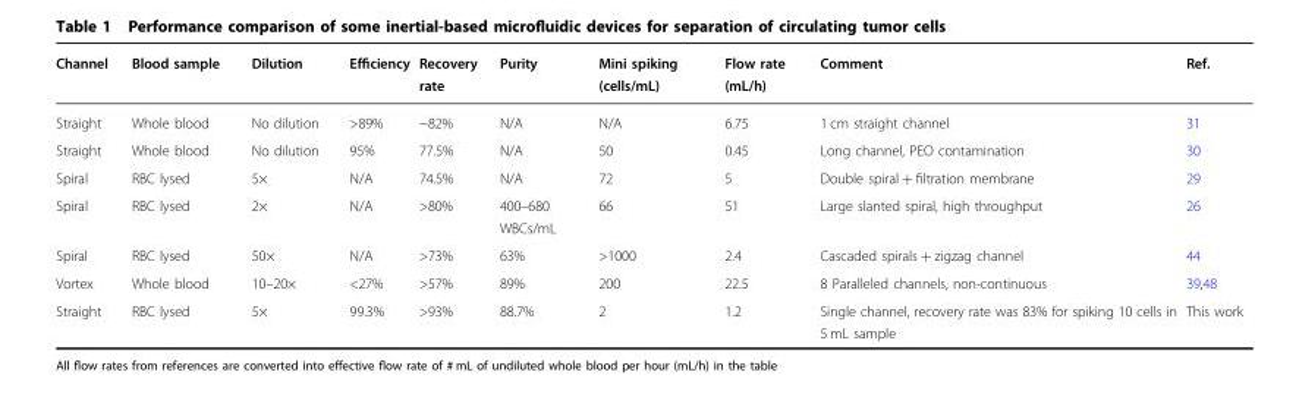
<table><thead><tr><td>Channel</td><td>Blood sample</td><td>Dilution</td><td>Efficiency</td><td>Recovery rate</td><td>Purity</td><td>Mini spiking (cells/mL)</td><td>Flow rate (mL/h)</td><td>Comment</td><td>Ref.</td></tr></thead><tbody><tr><td>Straight</td><td>Whole blood</td><td>No dilution</td><td>&gt;89%</td><td>~82%</td><td>N/A</td><td>N/A</td><td>6.75</td><td>1 cm straight channel</td><td>31</td></tr><tr><td>Straight</td><td>Whole blood</td><td>No dilution</td><td>95%</td><td>77.5%</td><td>N/A</td><td>50</td><td>0.45</td><td>Long channel, PEO contamination</td><td>30</td></tr><tr><td>Spiral</td><td>RBC lysed</td><td>5×</td><td>N/A</td><td>74.5%</td><td>N/A</td><td>72</td><td>5</td><td>Double spiral + filtration membrane</td><td>29</td></tr><tr><td>Spiral</td><td>RBC lysed</td><td>2×</td><td>N/A</td><td>&gt;80%</td><td>400–680 WBCs/mL</td><td>66</td><td>51</td><td>Large slanted spiral, high throughput</td><td>26</td></tr><tr><td>Spiral</td><td>RBC lysed</td><td>50×</td><td>N/A</td><td>&gt;73%</td><td>63%</td><td>&gt;1000</td><td>2.4</td><td>Cascaded spirals + zigzag channel</td><td>44</td></tr><tr><td>Vortex</td><td>Whole blood</td><td>10–20×</td><td>&lt;27%</td><td>&gt;57%</td><td>89%</td><td>200</td><td>22.5</td><td>8 Paralleled channels, non-continuous</td><td>39,48</td></tr><tr><td>Straight</td><td>RBC lysed</td><td>5×</td><td>99.3%</td><td>&gt;93%</td><td>88.7%</td><td>2</td><td>1.2</td><td>Single channel, recovery rate was 83% for spiking 10 cells in 5 mL sample</td><td>This work</td></tr></tbody></table>